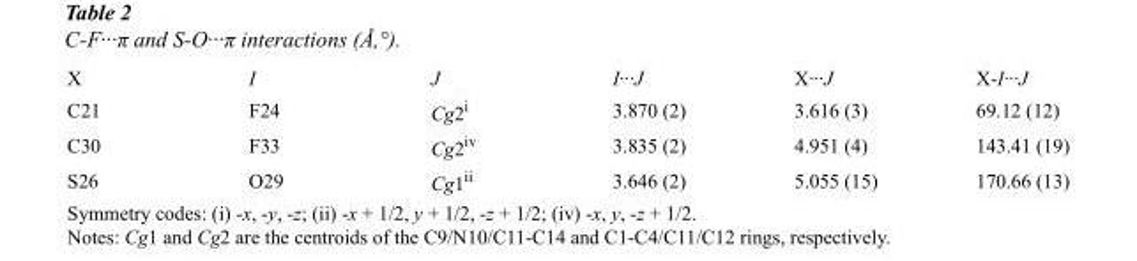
<table><tbody><tr><td>X</td><td>I</td><td>J</td><td>I···J</td><td>X···J</td><td>X-I···J</td></tr><tr><td>C21</td><td>F24</td><td>Cg2<sup>i</sup></td><td>3.870 (2)</td><td>3.616 (3)</td><td>69.12 (12)</td></tr><tr><td>C30</td><td>F33</td><td>Cg2<sup>iv</sup></td><td>3.835 (2)</td><td>4.951 (4)</td><td>143.41 (19)</td></tr><tr><td>S26</td><td>O29</td><td>Cg1<sup>ii</sup></td><td>3.646 (2)</td><td>5.055 (15)</td><td>170.66 (13)</td></tr></tbody></table>